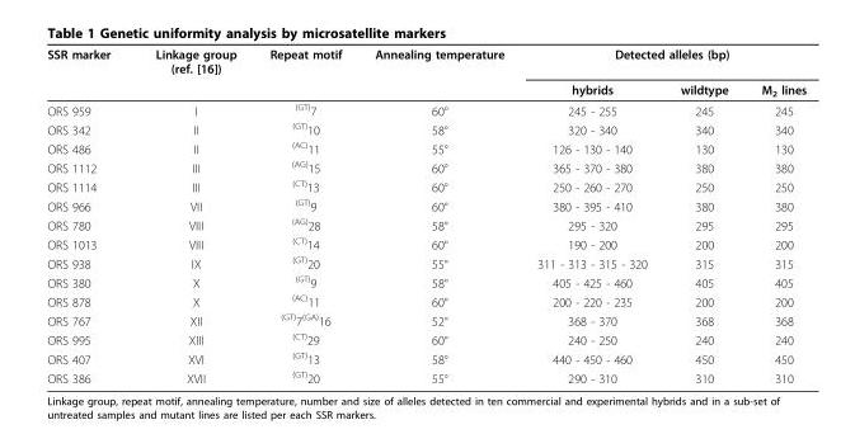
<table><thead><tr><td rowspan="2">SSR marker</td><td rowspan="2">Linkage group (ref. [16])</td><td rowspan="2">Repeat motif</td><td rowspan="2">Annealing temperature</td><td colspan="3">Detected alleles (bp)</td></tr><tr><td>hybrids</td><td>wildtype</td><td>M<sub>2</sub> lines</td></tr></thead><tbody><tr><td>ORS 959</td><td>I</td><td><sup>(GT)</sup>7</td><td>60°</td><td>245 - 255</td><td>245</td><td>245</td></tr><tr><td>ORS 342</td><td>II</td><td><sup>(GT)</sup>10</td><td>58°</td><td>320 - 340</td><td>340</td><td>340</td></tr><tr><td>ORS 486</td><td>II</td><td><sup>(AC)</sup>11</td><td>55°</td><td>126 - 130 - 140</td><td>130</td><td>130</td></tr><tr><td>ORS 1112</td><td>III</td><td><sup>(AG)</sup>15</td><td>60°</td><td>365 - 370 - 380</td><td>380</td><td>380</td></tr><tr><td>ORS 1114</td><td>III</td><td><sup>(CT)</sup>13</td><td>60°</td><td>250 - 260 - 270</td><td>250</td><td>250</td></tr><tr><td>ORS 966</td><td>VII</td><td><sup>(GT)</sup>9</td><td>60°</td><td>380 - 395 - 410</td><td>380</td><td>380</td></tr><tr><td>ORS 780</td><td>VIII</td><td><sup>(AG)</sup>28</td><td>58°</td><td>295 - 320</td><td>295</td><td>295</td></tr><tr><td>ORS 1013</td><td>VIII</td><td><sup>(CT)</sup>14</td><td>60°</td><td>190 - 200</td><td>200</td><td>200</td></tr><tr><td>ORS 938</td><td>IX</td><td><sup>(GT)</sup>20</td><td>55°</td><td>311 - 313 - 315 - 320</td><td>315</td><td>315</td></tr><tr><td>ORS 380</td><td>X</td><td><sup>(GT)</sup>9</td><td>58°</td><td>405 - 425 - 460</td><td>405</td><td>405</td></tr><tr><td>ORS 878</td><td>X</td><td><sup>(AC)</sup>11</td><td>60°</td><td>200 - 220 - 235</td><td>200</td><td>200</td></tr><tr><td>ORS 767</td><td>XII</td><td><sup>(GT)</sup>7<sup>(GA)</sup>16</td><td>52°</td><td>368 - 370</td><td>368</td><td>368</td></tr><tr><td>ORS 995</td><td>XIII</td><td><sup>(CT)</sup>29</td><td>60°</td><td>240 - 250</td><td>240</td><td>240</td></tr><tr><td>ORS 407</td><td>XVI</td><td><sup>(GT)</sup>13</td><td>58°</td><td>440 - 450 - 460</td><td>450</td><td>450</td></tr><tr><td>ORS 386</td><td>XVII</td><td><sup>(GT)</sup>20</td><td>55°</td><td>290 - 310</td><td>310</td><td>310</td></tr></tbody></table>